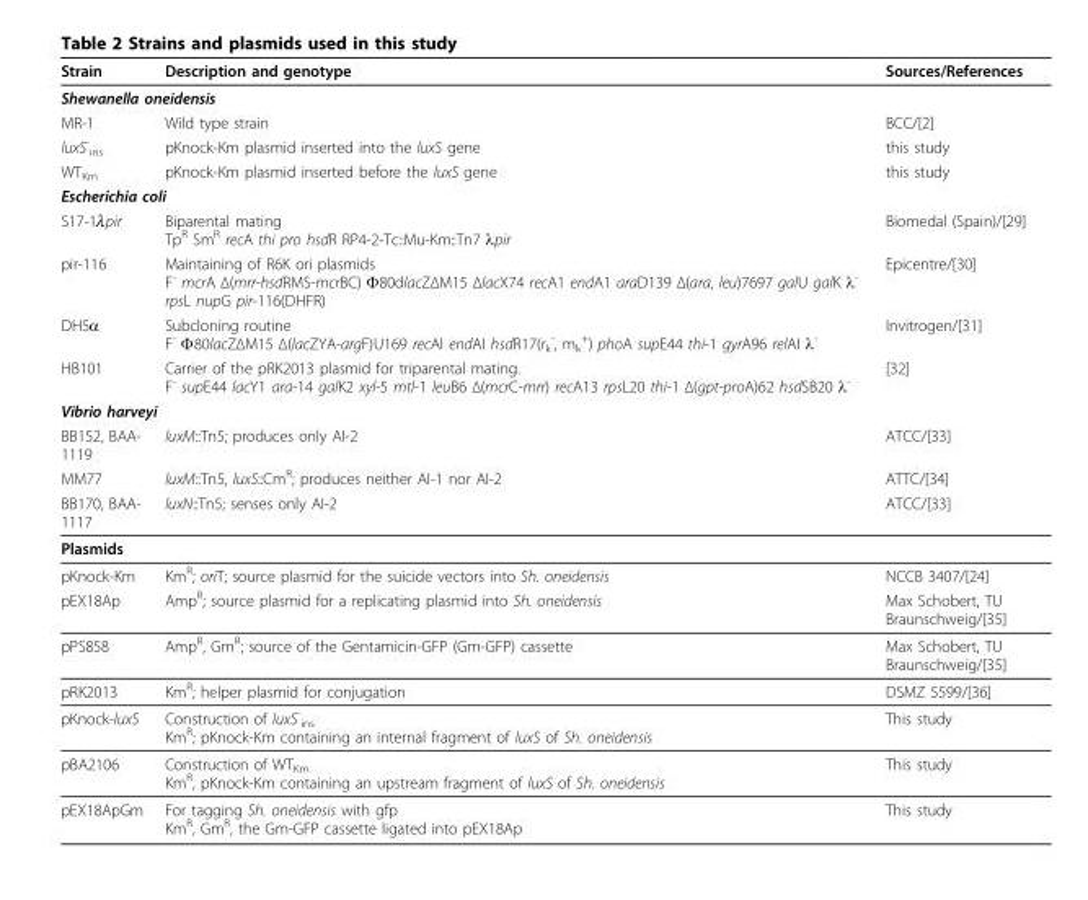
<table><thead><tr><td>Strain</td><td>Description and genotype</td><td>Sources/References</td></tr></thead><tbody><tr><td colspan="3">Shewanella oneidensis</td></tr><tr><td>MR-1</td><td>Wild type strain</td><td>BCC/[2]</td></tr><tr><td>luxS<sup>-</sup> <sub>ins</sub></td><td>pKnock-Km plasmid inserted into the luxS gene</td><td>this study</td></tr><tr><td>WT<sub>Km</sub></td><td>pKnock-Km plasmid inserted before the luxS gene</td><td>this study</td></tr><tr><td colspan="3">Escherichia coli</td></tr><tr><td>S17-1λpir</td><td>Biparental mating Tp<sup>R</sup> Sm<sup>R</sup> recA thi pro hsdR RP4-2-Tc::Mu-Km::Tn7 λpir</td><td>Biomedal (Spain)/[29]</td></tr><tr><td>pir-116</td><td>Maintaining of R6K ori plasmids F<sup>-</sup> mcrA Δ(mrr-hsdRMS-mcrBC) Φ80dlacZΔM15 ΔlacX74 recA1 endA1 araD139 Δ(ara, leu)7697 galU galK λ<sup>-</sup> rpsL nupG pir-116(DHFR)</td><td>Epicentre/[30]</td></tr><tr><td>DH5α</td><td>Subcloning routine F<sup>-</sup> Φ80lacZΔM15 Δ(lacZYA-argF)U169 recAl endAI hsdR17(r<sub>k</sub> <sup>-</sup>, m<sub>k</sub> <sup>+</sup>) phoA supE44 thi-1 gyrA96 relAI λ<sup>-</sup></td><td>Invitrogen/[31]</td></tr><tr><td>HB101</td><td>Carrier of the pRK2013 plasmid for triparental mating. F<sup>-</sup> supE44 lacY1 ara-14 galK2 xyl-5 mtl-1 leuB6 Δ(mcrC-mrr) recA13 rpsL20 thi-1 Δ(gpt-proA)62 hsdSB20 λ<sup>-</sup></td><td>[32]</td></tr><tr><td colspan="3">Vibrio harveyi</td></tr><tr><td>BB152, BAA- 1119</td><td>luxM::Tn5; produces only AI-2</td><td>ATCC/[33]</td></tr><tr><td>MM77</td><td>luxM::Tn5, luxS::Cm<sup>R</sup>; produces neither AI-1 nor AI-2</td><td>ATTC/[34]</td></tr><tr><td>BB170, BAA- 1117</td><td>luxN::Tn5; senses only AI-2</td><td>ATCC/[33]</td></tr><tr><td colspan="3">Plasmids</td></tr><tr><td>pKnock-Km</td><td>Km<sup>R</sup>; oriT; source plasmid for the suicide vectors into Sh. oneidensis</td><td>NCCB 3407/[24]</td></tr><tr><td>pEX18Ap</td><td>Amp<sup>R</sup>; source plasmid for a replicating plasmid into Sh. oneidensis</td><td>Max Schobert, TU Braunschweig/[35]</td></tr><tr><td>pPS858</td><td>Amp<sup>R</sup>, Gm<sup>R</sup>; source of the Gentamicin-GFP (Gm-GFP) cassette</td><td>Max Schobert, TU Braunschweig/[35]</td></tr><tr><td>pRK2013</td><td>Km<sup>R</sup>; helper plasmid for conjugation</td><td>DSMZ 5599/[36]</td></tr><tr><td>pKnock-luxS</td><td>Construction of luxS<sup>-</sup> <sub>ins</sub> Km<sup>R</sup>; pKnock-Km containing an internal fragment of luxS of Sh. oneidensis</td><td>This study</td></tr><tr><td>pBA2106</td><td>Construction of WT<sub>Km</sub> Km<sup>R</sup>, pKnock-Km containing an upstream fragment of luxS of Sh. oneidensis</td><td>This study</td></tr><tr><td>pEX18ApGm</td><td>For tagging Sh. oneidensis with gfp Km<sup>R</sup>, Gm<sup>R</sup>, the Gm-GFP cassette ligated into pEX18Ap</td><td>This study</td></tr></tbody></table>